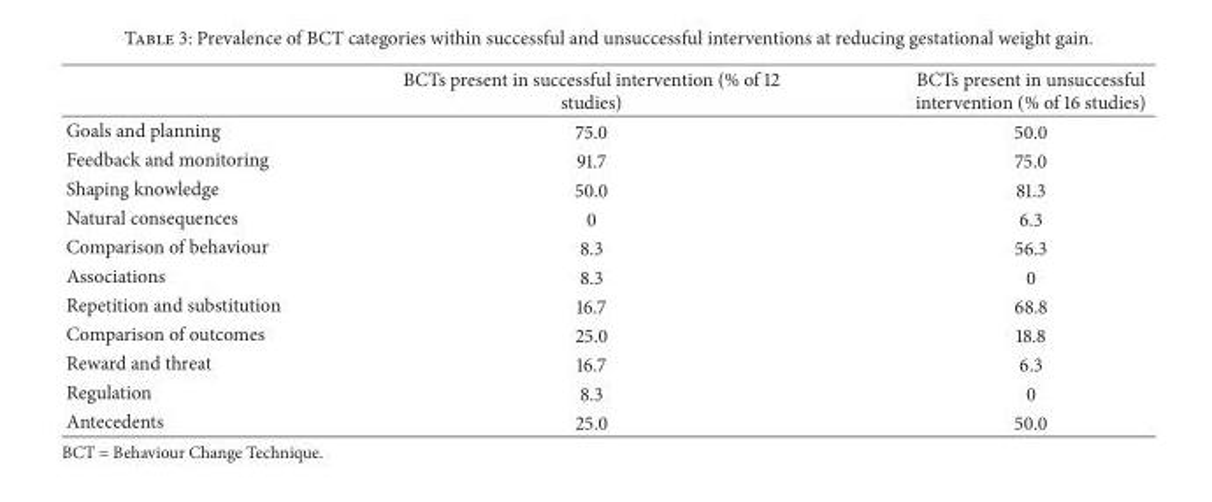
<table><thead><tr><td></td><td>BCTs present in successful intervention (% of 12 studies)</td><td>BCTs present in unsuccessful intervention (% of 16 studies)</td></tr></thead><tbody><tr><td>Goals and planning</td><td>75.0</td><td>50.0</td></tr><tr><td>Feedback and monitoring</td><td>91.7</td><td>75.0</td></tr><tr><td>Shaping knowledge</td><td>50.0</td><td>81.3</td></tr><tr><td>Natural consequences</td><td>0</td><td>6.3</td></tr><tr><td>Comparison of behaviour</td><td>8.3</td><td>56.3</td></tr><tr><td>Associations</td><td>8.3</td><td>0</td></tr><tr><td>Repetition and substitution</td><td>16.7</td><td>68.8</td></tr><tr><td>Comparison of outcomes</td><td>25.0</td><td>18.8</td></tr><tr><td>Reward and threat</td><td>16.7</td><td>6.3</td></tr><tr><td>Regulation</td><td>8.3</td><td>0</td></tr><tr><td>Antecedents</td><td>25.0</td><td>50.0</td></tr></tbody></table>